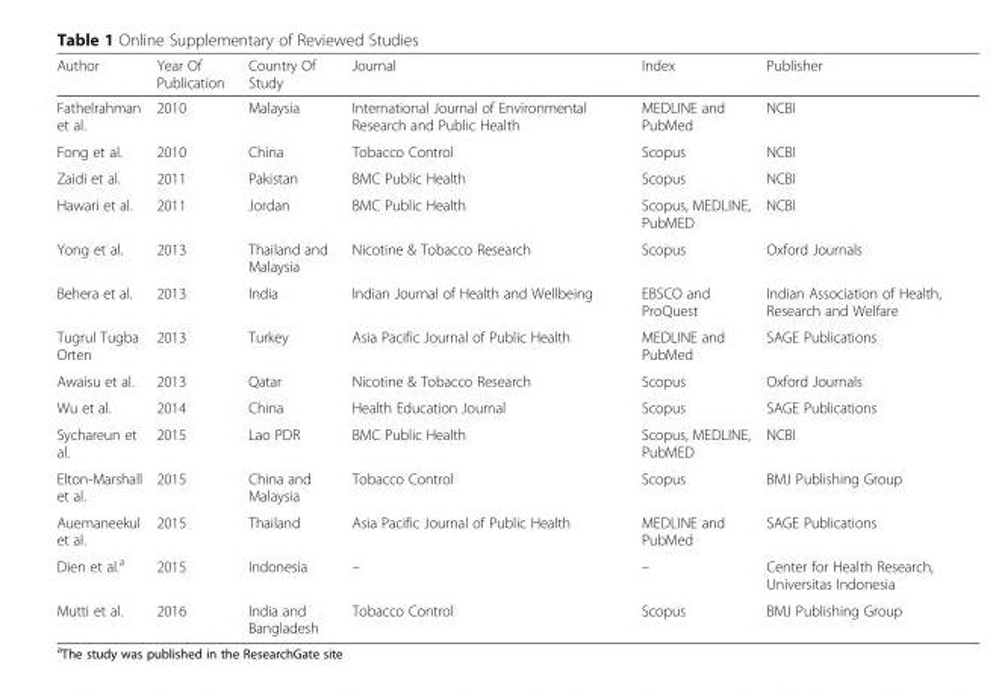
<table><thead><tr><td>Author</td><td>Year Of Publication</td><td>Country Of Study</td><td>Journal</td><td>Index</td><td>Publisher</td></tr></thead><tbody><tr><td>Fathelrahman et al.</td><td>2010</td><td>Malaysia</td><td>International Journal of Environmental Research and Public Health</td><td>MEDLINE and PubMed</td><td>NCBI</td></tr><tr><td>Fong et al.</td><td>2010</td><td>China</td><td>Tobacco Control</td><td>Scopus</td><td>NCBI</td></tr><tr><td>Zaidi et al.</td><td>2011</td><td>Pakistan</td><td>BMC Public Health</td><td>Scopus</td><td>NCBI</td></tr><tr><td>Hawari et al.</td><td>2011</td><td>Jordan</td><td>BMC Public Health</td><td>Scopus, MEDLINE, PubMED</td><td>NCBI</td></tr><tr><td>Yong et al.</td><td>2013</td><td>Thailand and Malaysia</td><td>Nicotine &amp; Tobacco Research</td><td>Scopus</td><td>Oxford Journals</td></tr><tr><td>Behera et al.</td><td>2013</td><td>India</td><td>Indian Journal of Health and Wellbeing</td><td>EBSCO and ProQuest</td><td>Indian Association of Health, Research and Welfare</td></tr><tr><td>Tugrul Tugba Orten</td><td>2013</td><td>Turkey</td><td>Asia Pacific Journal of Public Health</td><td>MEDLINE and PubMed</td><td>SAGE Publications</td></tr><tr><td>Awaisu et al.</td><td>2013</td><td>Qatar</td><td>Nicotine &amp; Tobacco Research</td><td>Scopus</td><td>Oxford Journals</td></tr><tr><td>Wu et al.</td><td>2014</td><td>China</td><td>Health Education Journal</td><td>Scopus</td><td>SAGE Publications</td></tr><tr><td>Sychareun et al.</td><td>2015</td><td>Lao PDR</td><td>BMC Public Health</td><td>Scopus, MEDLINE, PubMED</td><td>NCBI</td></tr><tr><td>Elton-Marshall et al.</td><td>2015</td><td>China and Malaysia</td><td>Tobacco Control</td><td>Scopus</td><td>BMJ Publishing Group</td></tr><tr><td>Auemaneekul et al.</td><td>2015</td><td>Thailand</td><td>Asia Pacific Journal of Public Health</td><td>MEDLINE and PubMed</td><td>SAGE Publications</td></tr><tr><td>Dien et al.<sup>a</sup></td><td>2015</td><td>Indonesia</td><td>–</td><td>–</td><td>Center for Health Research, Universitas Indonesia</td></tr><tr><td>Mutti et al.</td><td>2016</td><td>India and Bangladesh</td><td>Tobacco Control</td><td>Scopus</td><td>BMJ Publishing Group</td></tr></tbody></table>